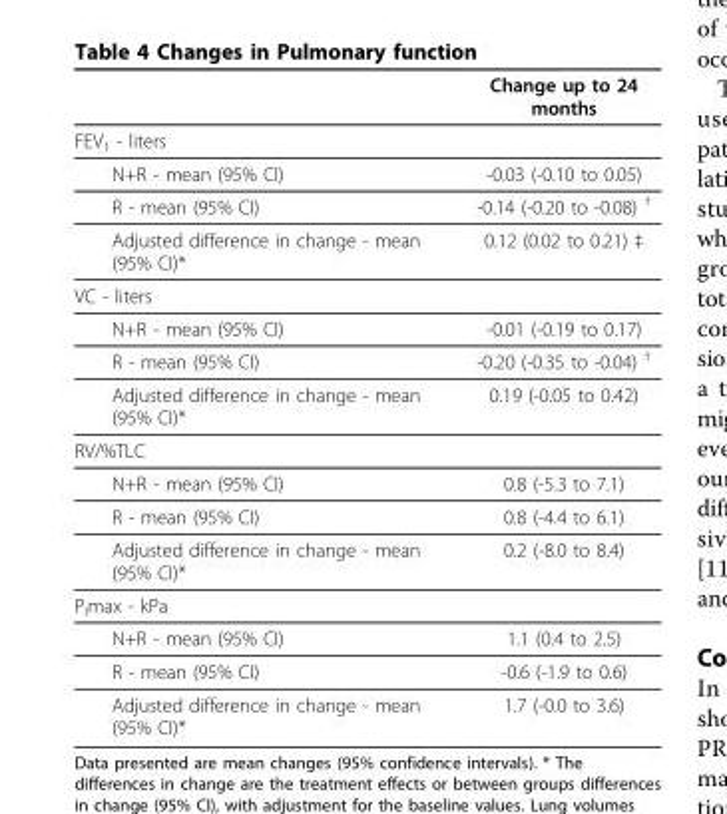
<table><thead><tr><td></td><td>Change up to 24 months</td></tr></thead><tbody><tr><td colspan="2">FEV<sub>1</sub> - liters</td></tr><tr><td>N+R - mean (95% CI)</td><td>-0.03 (-0.10 to 0.05)</td></tr><tr><td>R - mean (95% CI)</td><td>-0.14 (-0.20 to -0.08) <sup>†</sup></td></tr><tr><td>Adjusted difference in change - mean (95% CI)*</td><td>0.12 (0.02 to 0.21) ‡</td></tr><tr><td colspan="2">VC - liters</td></tr><tr><td>N+R - mean (95% CI)</td><td>-0.01 (-0.19 to 0.17)</td></tr><tr><td>R - mean (95% CI)</td><td>-0.20 (-0.35 to -0.04) <sup>†</sup></td></tr><tr><td>Adjusted difference in change - mean (95% CI)*</td><td>0.19 (-0.05 to 0.42)</td></tr><tr><td colspan="2">RV/%TLC</td></tr><tr><td>N+R - mean (95% CI)</td><td>0.8 (-5.3 to 7.1)</td></tr><tr><td>R - mean (95% CI)</td><td>0.8 (-4.4 to 6.1)</td></tr><tr><td>Adjusted difference in change - mean (95% CI)*</td><td>0.2 (-8.0 to 8.4)</td></tr><tr><td colspan="2">P<sub>I</sub>max - kPa</td></tr><tr><td>N+R - mean (95% CI)</td><td>1.1 (0.4 to 2.5)</td></tr><tr><td>R - mean (95% CI)</td><td>-0.6 (-1.9 to 0.6)</td></tr><tr><td>Adjusted difference in change - mean (95% CI)*</td><td>1.7 (-0.0 to 3.6)</td></tr></tbody></table>